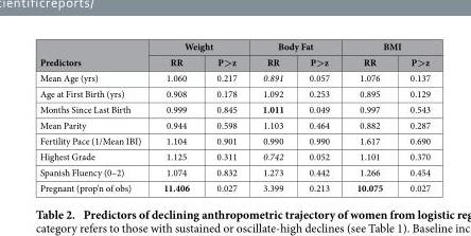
<table><thead><tr><td rowspan="2">Predictors</td><td colspan="2">Weight</td><td colspan="2">Body Fat</td><td colspan="2">BMI</td></tr><tr><td>RR</td><td>P&gt;z</td><td>RR</td><td>P&gt;z</td><td>RR</td><td>P&gt;z</td></tr></thead><tbody><tr><td>Mean Age (yrs)</td><td>1.060</td><td>0.217</td><td>0.891</td><td>0.057</td><td>1.076</td><td>0.137</td></tr><tr><td>Age at First Birth (yrs)</td><td>0.908</td><td>0.178</td><td>1.092</td><td>0.253</td><td>0.895</td><td>0.129</td></tr><tr><td>Months Since Last Birth</td><td>0.999</td><td>0.845</td><td>1.011</td><td>0.049</td><td>0.997</td><td>0.543</td></tr><tr><td>Mean Parity</td><td>0.944</td><td>0.598</td><td>1.103</td><td>0.464</td><td>0.882</td><td>0.287</td></tr><tr><td>Fertility Pace (1/Mean IBI)</td><td>1.104</td><td>0.901</td><td>0.990</td><td>0.990</td><td>1.617</td><td>0.690</td></tr><tr><td>Highest Grade</td><td>1.125</td><td>0.311</td><td>0.742</td><td>0.052</td><td>1.101</td><td>0.370</td></tr><tr><td>Spanish Fluency (0–2)</td><td>1.074</td><td>0.832</td><td>1.273</td><td>0.442</td><td>1.266</td><td>0.454</td></tr><tr><td>Pregnant (prop’n of obs)</td><td>11.406</td><td>0.027</td><td>3.399</td><td>0.213</td><td>10.075</td><td>0.027</td></tr></tbody></table>